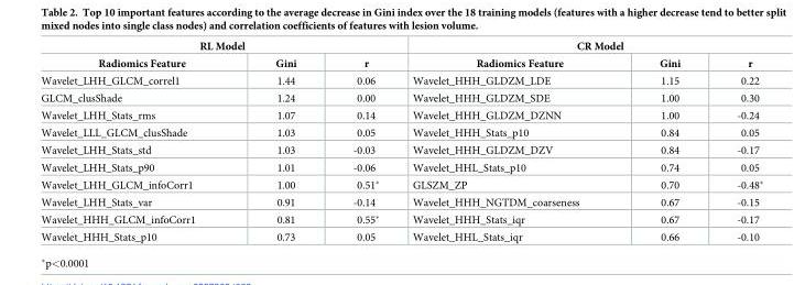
<table><thead><tr><td colspan="3">RL Model</td><td colspan="3">CR Model</td></tr><tr><td>Radiomics Feature</td><td>Gini</td><td>r</td><td>Radiomics Feature</td><td>Gini</td><td>r</td></tr></thead><tbody><tr><td>Wavelet_LHH_GLCM_correl1</td><td>1.44</td><td>0.06</td><td>Wavelet_HHH_GLDZM_LDE</td><td>1.15</td><td>0.22</td></tr><tr><td>GLCM_clusShade</td><td>1.24</td><td>0.00</td><td>Wavelet_HHH_GLDZM_SDE</td><td>1.00</td><td>0.30</td></tr><tr><td>Wavelet_LHH_Stats_rms</td><td>1.07</td><td>0.14</td><td>Wavelet_HHH_GLDZM_DZNN</td><td>1.00</td><td>-0.24</td></tr><tr><td>Wavelet_LLL_GLCM_clusShade</td><td>1.03</td><td>0.05</td><td>Wavelet_HHH_Stats_p10</td><td>0.84</td><td>0.05</td></tr><tr><td>Wavelet_LHH_Stats_std</td><td>1.03</td><td>-0.03</td><td>Wavelet_HHH_GLDZM_DZV</td><td>0.84</td><td>-0.17</td></tr><tr><td>Wavelet_LHH_Stats_p90</td><td>1.01</td><td>-0.06</td><td>Wavelet_HHL_Stats_p10</td><td>0.74</td><td>0.05</td></tr><tr><td>Wavelet_LHH_GLCM_infoCorr1</td><td>1.00</td><td>0.51*</td><td>GLSZM_ZP</td><td>0.70</td><td>-0.48*</td></tr><tr><td>Wavelet_LHH_Stats_var</td><td>0.91</td><td>-0.14</td><td>Wavelet_HHH_NGTDM_coarseness</td><td>0.67</td><td>-0.15</td></tr><tr><td>Wavelet_HHH_GLCM_infoCorr1</td><td>0.81</td><td>0.55*</td><td>Wavelet_HHH_Stats_iqr</td><td>0.67</td><td>-0.17</td></tr><tr><td>Wavelet_HHH_Stats_p10</td><td>0.73</td><td>0.05</td><td>Wavelet_HHL_Stats_iqr</td><td>0.66</td><td>-0.10</td></tr></tbody></table>